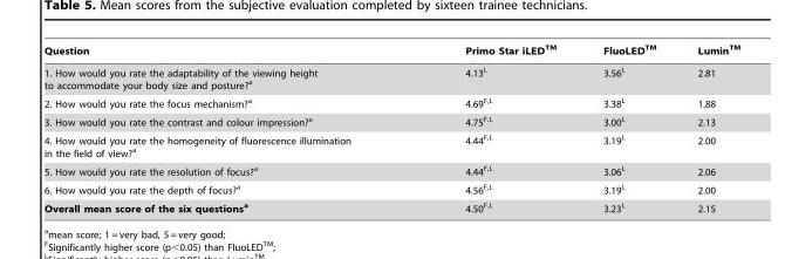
<table><thead><tr><td>Question</td><td>Primo Star iLEDTM</td><td>FluoLEDTM</td><td>LuminTM</td></tr></thead><tbody><tr><td>1. How would you rate the adaptability of the viewing height to accommodate your body size and posture?<sup>a</sup></td><td>4.13<sup>L</sup></td><td>3.56<sup>L</sup></td><td>2.81</td></tr><tr><td>2. How would you rate the focus mechanism?<sup>a</sup></td><td>4.69<sup>F,</sup>L</td><td>3.38<sup>L</sup></td><td>1.88</td></tr><tr><td>3. How would you rate the contrast and colour impression?<sup>a</sup></td><td>4.75<sup>F,</sup>L</td><td>3.00<sup>L</sup></td><td>2.13</td></tr><tr><td>4. How would you rate the homogeneity of fluorescence illumination in the field of view?<sup>a</sup></td><td>4.44<sup>F,</sup>L</td><td>3.19<sup>L</sup></td><td>2.00</td></tr><tr><td>5. How would you rate the resolution of focus?<sup>a</sup></td><td>4.44<sup>F,</sup>L</td><td>3.06<sup>L</sup></td><td>2.06</td></tr><tr><td>6. How would you rate the depth of focus?<sup>a</sup></td><td>4.56<sup>F,</sup>L</td><td>3.19<sup>L</sup></td><td>2.00</td></tr><tr><td>Overall mean score of the six questionsa</td><td>4.50<sup>F,</sup>L</td><td>3.23<sup>L</sup></td><td>2.15</td></tr></tbody></table>